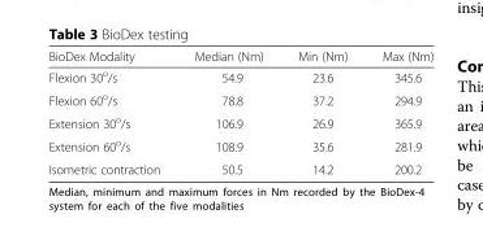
<table><thead><tr><td>BioDex Modality</td><td>Median (Nm)</td><td>Min (Nm)</td><td>Max (Nm)</td></tr></thead><tbody><tr><td>Flexion 30<sup>o</sup>/s</td><td>54.9</td><td>23.6</td><td>345.6</td></tr><tr><td>Flexion 60<sup>o</sup>/s</td><td>78.8</td><td>37.2</td><td>294.9</td></tr><tr><td>Extension 30<sup>o</sup>/s</td><td>106.9</td><td>26.9</td><td>365.9</td></tr><tr><td>Extension 60<sup>o</sup>/s</td><td>108.9</td><td>35.6</td><td>281.9</td></tr><tr><td>Isometric contraction</td><td>50.5</td><td>14.2</td><td>200.2</td></tr></tbody></table>